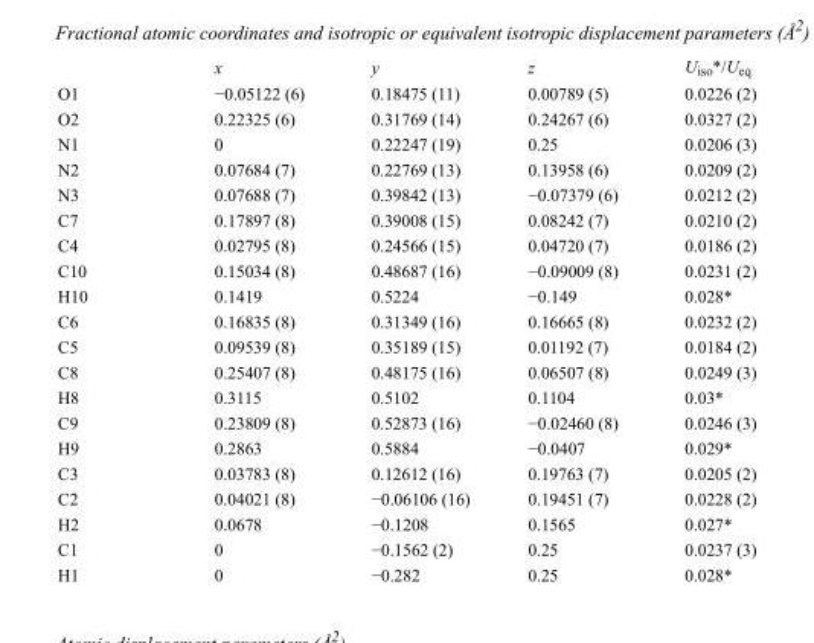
<table><thead><tr><td></td><td>x</td><td>y</td><td>z</td><td>U<sub>iso</sub>*/U<sub>eq</sub></td></tr></thead><tbody><tr><td>O1</td><td>−0.05122 (6)</td><td>0.18475 (11)</td><td>0.00789 (5)</td><td>0.0226 (2)</td></tr><tr><td>O2</td><td>0.22325 (6)</td><td>0.31769 (14)</td><td>0.24267 (6)</td><td>0.0327 (2)</td></tr><tr><td>N1</td><td>0</td><td>0.22247 (19)</td><td>0.25</td><td>0.0206 (3)</td></tr><tr><td>N2</td><td>0.07684 (7)</td><td>0.22769 (13)</td><td>0.13958 (6)</td><td>0.0209 (2)</td></tr><tr><td>N3</td><td>0.07688 (7)</td><td>0.39842 (13)</td><td>−0.07379 (6)</td><td>0.0212 (2)</td></tr><tr><td>C7</td><td>0.17897 (8)</td><td>0.39008 (15)</td><td>0.08242 (7)</td><td>0.0210 (2)</td></tr><tr><td>C4</td><td>0.02795 (8)</td><td>0.24566 (15)</td><td>0.04720 (7)</td><td>0.0186 (2)</td></tr><tr><td>C10</td><td>0.15034 (8)</td><td>0.48687 (16)</td><td>−0.09009 (8)</td><td>0.0231 (2)</td></tr><tr><td>H10</td><td>0.1419</td><td>0.5224</td><td>−0.149</td><td>0.028*</td></tr><tr><td>C6</td><td>0.16835 (8)</td><td>0.31349 (16)</td><td>0.16665 (8)</td><td>0.0232 (2)</td></tr><tr><td>C5</td><td>0.09539 (8)</td><td>0.35189 (15)</td><td>0.01192 (7)</td><td>0.0184 (2)</td></tr><tr><td>C8</td><td>0.25407 (8)</td><td>0.48175 (16)</td><td>0.06507 (8)</td><td>0.0249 (3)</td></tr><tr><td>H8</td><td>0.3115</td><td>0.5102</td><td>0.1104</td><td>0.03*</td></tr><tr><td>C9</td><td>0.23809 (8)</td><td>0.52873 (16)</td><td>−0.02460 (8)</td><td>0.0246 (3)</td></tr><tr><td>H9</td><td>0.2863</td><td>0.5884</td><td>−0.0407</td><td>0.029*</td></tr><tr><td>C3</td><td>0.03783 (8)</td><td>0.12612 (16)</td><td>0.19763 (7)</td><td>0.0205 (2)</td></tr><tr><td>C2</td><td>0.04021 (8)</td><td>−0.06106 (16)</td><td>0.19451 (7)</td><td>0.0228 (2)</td></tr><tr><td>H2</td><td>0.0678</td><td>−0.1208</td><td>0.1565</td><td>0.027*</td></tr><tr><td>C1</td><td>0</td><td>−0.1562 (2)</td><td>0.25</td><td>0.0237 (3)</td></tr><tr><td>H1</td><td>0</td><td>−0.282</td><td>0.25</td><td>0.028*</td></tr></tbody></table>